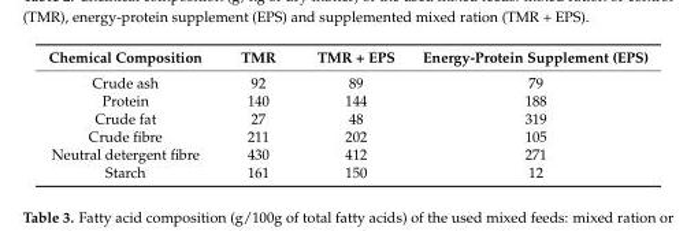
<table><thead><tr><td>Chemical Composition</td><td>TMR</td><td>TMR + EPS</td><td>Energy-Protein Supplement (EPS)</td></tr></thead><tbody><tr><td>Crude ash</td><td>92</td><td>89</td><td>79</td></tr><tr><td>Protein</td><td>140</td><td>144</td><td>188</td></tr><tr><td>Crude fat</td><td>27</td><td>48</td><td>319</td></tr><tr><td>Crude fibre</td><td>211</td><td>202</td><td>105</td></tr><tr><td>Neutral detergent fibre</td><td>430</td><td>412</td><td>271</td></tr><tr><td>Starch</td><td>161</td><td>150</td><td>12</td></tr></tbody></table>